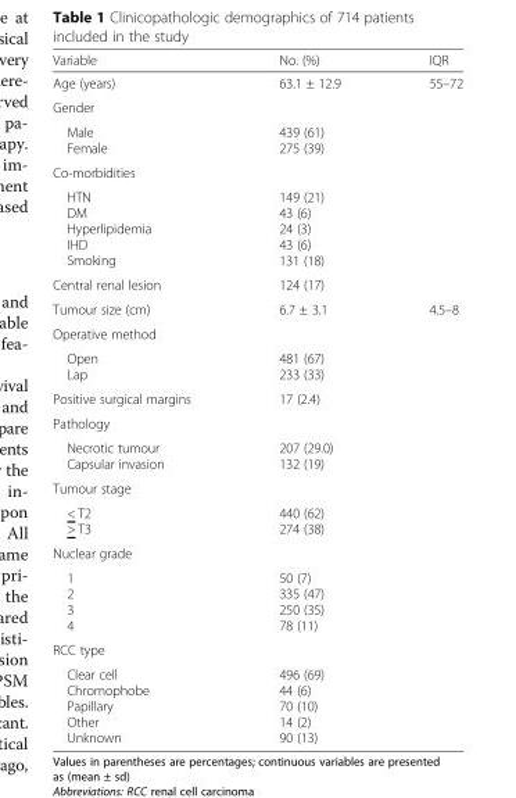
<table><thead><tr><td>Variable</td><td>No. (%)</td><td>IQR</td></tr></thead><tbody><tr><td>Age (years)</td><td>63.1 ± 12.9</td><td>55–72</td></tr><tr><td colspan="3">Gender</td></tr><tr><td>Male Female</td><td>439 (61) 275 (39)</td><td></td></tr><tr><td colspan="3">Co-morbidities</td></tr><tr><td>HTN DM Hyperlipidemia IHD Smoking</td><td>149 (21) 43 (6) 24 (3) 43 (6) 131 (18)</td><td></td></tr><tr><td>Central renal lesion</td><td>124 (17)</td><td></td></tr><tr><td>Tumour size (cm)</td><td>6.7 ± 3.1</td><td>4.5–8</td></tr><tr><td colspan="3">Operative method</td></tr><tr><td>Open Lap</td><td>481 (67) 233 (33)</td><td></td></tr><tr><td>Positive surgical margins</td><td>17 (2.4)</td><td></td></tr><tr><td colspan="3">Pathology</td></tr><tr><td>Necrotic tumour Capsular invasion</td><td>207 (29.0) 132 (19)</td><td></td></tr><tr><td colspan="3">Tumour stage</td></tr><tr><td>&lt; T2 &gt; T3</td><td>440 (62) 274 (38)</td><td></td></tr><tr><td colspan="3">Nuclear grade</td></tr><tr><td>1 2 3 4</td><td>50 (7) 335 (47) 250 (35) 78 (11)</td><td></td></tr><tr><td colspan="3">RCC type</td></tr><tr><td>Clear cell Chromophobe Papillary Other Unknown</td><td>496 (69) 44 (6) 70 (10) 14 (2) 90 (13)</td><td></td></tr></tbody></table>